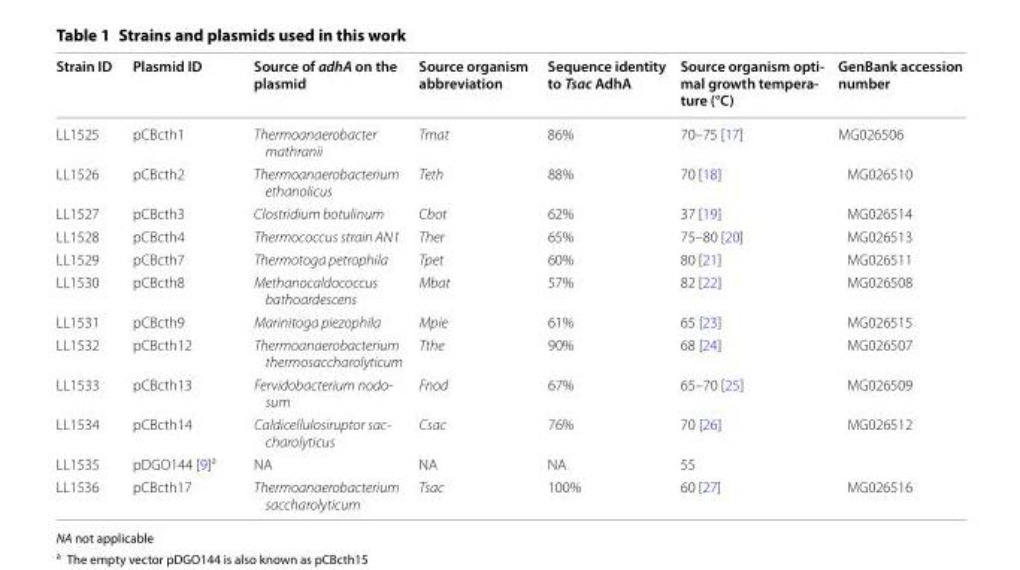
<table><thead><tr><td>Strain ID</td><td>Plasmid ID</td><td>Source of adhA on the plasmid</td><td>Source organism abbreviation</td><td>Sequence identity to Tsac AdhA</td><td>Source organism opti‑ mal growth tempera‑ ture (°C)</td><td>GenBank accession number</td></tr></thead><tbody><tr><td>LL1525</td><td>pCBcth1</td><td>Thermoanaerobacter mathranii</td><td>Tmat</td><td>86%</td><td>70–75 [17]</td><td>MG026506</td></tr><tr><td>LL1526</td><td>pCBcth2</td><td>Thermoanaerobacterium ethanolicus</td><td>Teth</td><td>88%</td><td>70 [18]</td><td>MG026510</td></tr><tr><td>LL1527</td><td>pCBcth3</td><td>Clostridium botulinum</td><td>Cbot</td><td>62%</td><td>37 [19]</td><td>MG026514</td></tr><tr><td>LL1528</td><td>pCBcth4</td><td>Thermococcus strain AN1</td><td>Ther</td><td>65%</td><td>75–80 [20]</td><td>MG026513</td></tr><tr><td>LL1529</td><td>pCBcth7</td><td>Thermotoga petrophila</td><td>Tpet</td><td>60%</td><td>80 [21]</td><td>MG026511</td></tr><tr><td>LL1530</td><td>pCBcth8</td><td>Methanocaldococcus bathoardescens</td><td>Mbat</td><td>57%</td><td>82 [22]</td><td>MG026508</td></tr><tr><td>LL1531</td><td>pCBcth9</td><td>Marinitoga piezophila</td><td>Mpie</td><td>61%</td><td>65 [23]</td><td>MG026515</td></tr><tr><td>LL1532</td><td>pCBcth12</td><td>Thermoanaerobacterium thermosaccharolyticum</td><td>Tthe</td><td>90%</td><td>68 [24]</td><td>MG026507</td></tr><tr><td>LL1533</td><td>pCBcth13</td><td>Fervidobacterium nodo- sum</td><td>Fnod</td><td>67%</td><td>65–70 [25]</td><td>MG026509</td></tr><tr><td>LL1534</td><td>pCBcth14</td><td>Caldicellulosiruptor sac- charolyticus</td><td>Csac</td><td>76%</td><td>70 [26]</td><td>MG026512</td></tr><tr><td>LL1535</td><td>pDGO144 [9]<sup>a</sup></td><td>NA</td><td>NA</td><td>NA</td><td>55</td><td></td></tr><tr><td>LL1536</td><td>pCBcth17</td><td>Thermoanaerobacterium saccharolyticum</td><td>Tsac</td><td>100%</td><td>60 [27]</td><td>MG026516</td></tr></tbody></table>